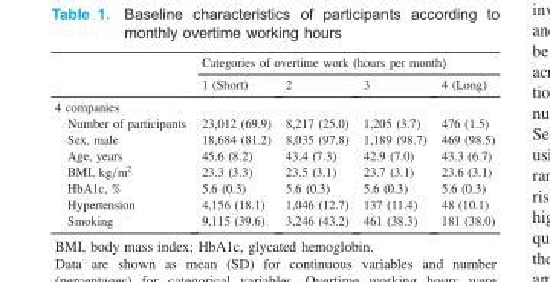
<table><thead><tr><td rowspan="2"></td><td colspan="4">Categories of overtime work (hours per month)</td></tr><tr><td>1 (Short)</td><td>2</td><td>3</td><td>4 (Long)</td></tr></thead><tbody><tr><td colspan="5">4 companies</td></tr><tr><td>Number of participants</td><td>23,012 (69.9)</td><td>8,217 (25.0)</td><td>1,205 (3.7)</td><td>476 (1.5)</td></tr><tr><td>Sex, male</td><td>18,684 (81.2)</td><td>8,035 (97.8)</td><td>1,189 (98.7)</td><td>469 (98.5)</td></tr><tr><td>Age, years</td><td>45.6 (8.2)</td><td>43.4 (7.3)</td><td>42.9 (7.0)</td><td>43.3 (6.7)</td></tr><tr><td>BMI, kg=m2</td><td>23.3 (3.3)</td><td>23.5 (3.1)</td><td>23.7 (3.1)</td><td>23.6 (3.1)</td></tr><tr><td>HbA1c, %</td><td>5.6 (0.3)</td><td>5.6 (0.3)</td><td>5.6 (0.3)</td><td>5.6 (0.3)</td></tr><tr><td>Hypertension</td><td>4,156 (18.1)</td><td>1,046 (12.7)</td><td>137 (11.4)</td><td>48 (10.1)</td></tr><tr><td>Smoking</td><td>9,115 (39.6)</td><td>3,246 (43.2)</td><td>461 (38.3)</td><td>181 (38.0)</td></tr></tbody></table>